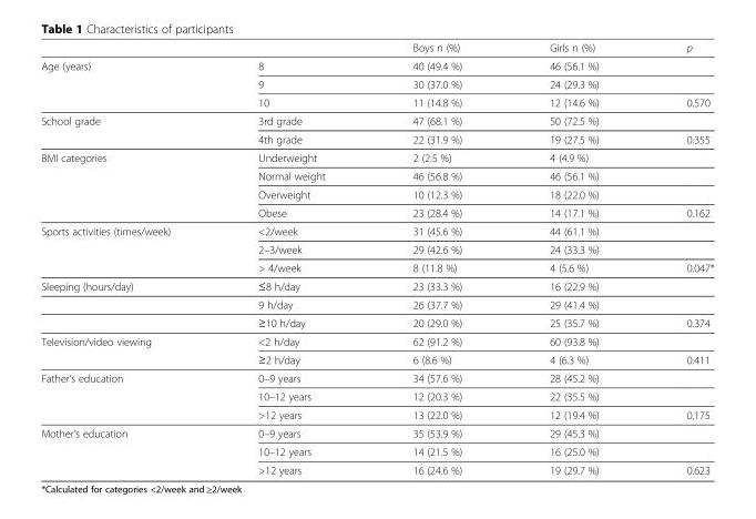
<table><thead><tr><td></td><td></td><td>Boys n (%)</td><td>Girls n (%)</td><td>p</td></tr></thead><tbody><tr><td rowspan="3">Age (years)</td><td>8</td><td>40 (49.4 %)</td><td>46 (56.1 %)</td><td></td></tr><tr><td>9</td><td>30 (37.0 %)</td><td>24 (29.3 %)</td><td></td></tr><tr><td>10</td><td>11 (14.8 %)</td><td>12 (14.6 %)</td><td>0.570</td></tr><tr><td rowspan="2">School grade</td><td>3rd grade</td><td>47 (68.1 %)</td><td>50 (72.5 %)</td><td></td></tr><tr><td>4th grade</td><td>22 (31.9 %)</td><td>19 (27.5 %)</td><td>0.355</td></tr><tr><td rowspan="4">BMI categories</td><td>Underweight</td><td>2 (2.5 %)</td><td>4 (4.9 %)</td><td></td></tr><tr><td>Normal weight</td><td>46 (56.8 %)</td><td>46 (56.1 %)</td><td></td></tr><tr><td>Overweight</td><td>10 (12.3 %)</td><td>18 (22.0 %)</td><td></td></tr><tr><td>Obese</td><td>23 (28.4 %)</td><td>14 (17.1 %)</td><td>0.162</td></tr><tr><td rowspan="3">Sports activities (times/week)</td><td>&lt;2/week</td><td>31 (45.6 %)</td><td>44 (61.1 %)</td><td></td></tr><tr><td>2–3/week</td><td>29 (42.6 %)</td><td>24 (33.3 %)</td><td></td></tr><tr><td>&gt; 4/week</td><td>8 (11.8 %)</td><td>4 (5.6 %)</td><td>0.047*</td></tr><tr><td rowspan="3">Sleeping (hours/day)</td><td>≤8 h/day</td><td>23 (33.3 %)</td><td>16 (22.9 %)</td><td></td></tr><tr><td>9 h/day</td><td>26 (37.7 %)</td><td>29 (41.4 %)</td><td></td></tr><tr><td>≥10 h/day</td><td>20 (29.0 %)</td><td>25 (35.7 %)</td><td>0.374</td></tr><tr><td rowspan="2">Television/video viewing</td><td>&lt;2 h/day</td><td>62 (91.2 %)</td><td>60 (93.8 %)</td><td></td></tr><tr><td>≥2 h/day</td><td>6 (8.6 %)</td><td>4 (6.3 %)</td><td>0.411</td></tr><tr><td rowspan="3">Father’s education</td><td>0–9 years</td><td>34 (57.6 %)</td><td>28 (45.2 %)</td><td></td></tr><tr><td>10–12 years</td><td>12 (20.3 %)</td><td>22 (35.5 %)</td><td></td></tr><tr><td>&gt;12 years</td><td>13 (22.0 %)</td><td>12 (19.4 %)</td><td>0.175</td></tr><tr><td rowspan="3">Mother’s education</td><td>0–9 years</td><td>35 (53.9 %)</td><td>29 (45.3 %)</td><td></td></tr><tr><td>10–12 years</td><td>14 (21.5 %)</td><td>16 (25.0 %)</td><td></td></tr><tr><td>&gt;12 years</td><td>16 (24.6 %)</td><td>19 (29.7 %)</td><td>0.623</td></tr></tbody></table>